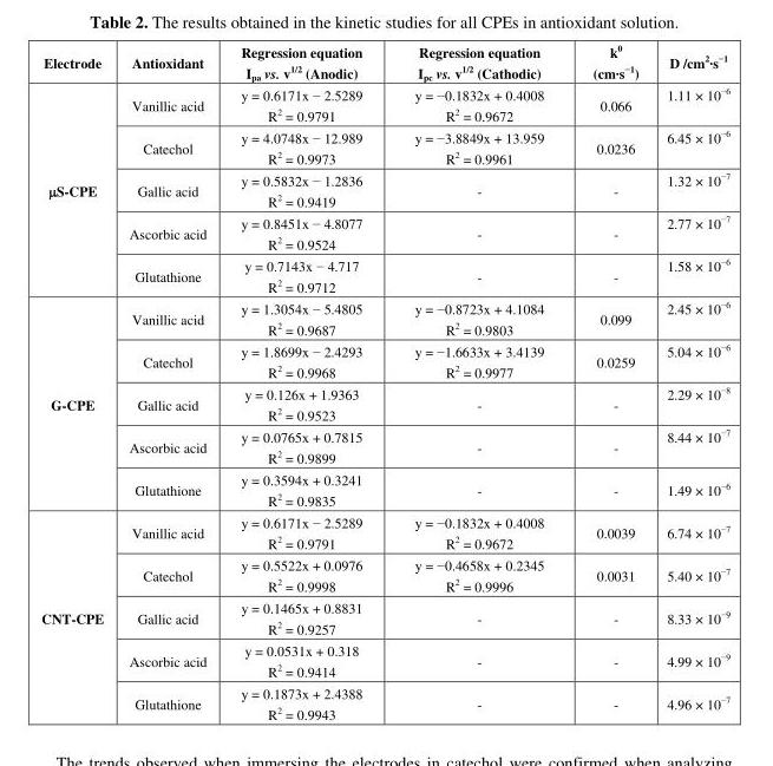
<table><thead><tr><td>Electrode</td><td>Antioxidant</td><td>Regression equation I<sub>pa</sub> vs. v<sup>1/2</sup> (Anodic)</td><td>Regression equation I<sub>pc</sub> vs. v<sup>1/2</sup> (Cathodic)</td><td>k<sup>0</sup> (cm·s<sup>−1</sup>)</td><td>D /cm<sup>2</sup>·s<sup>−1</sup></td></tr></thead><tbody><tr><td rowspan="5">μS-CPE</td><td>Vanillic acid</td><td>y = 0.6171x − 2.5289 R<sup>2</sup> = 0.9791</td><td>y = −0.1832x + 0.4008 R<sup>2</sup> = 0.9672</td><td>0.066</td><td>1.11 × 10<sup>−6</sup></td></tr><tr><td>Catechol</td><td>y = 4.0748x − 12.989 R<sup>2</sup> = 0.9973</td><td>y = −3.8849x + 13.959 R<sup>2</sup> = 0.9961</td><td>0.0236</td><td>6.45 × 10<sup>−6</sup></td></tr><tr><td>Gallic acid</td><td>y = 0.5832x − 1.2836 R<sup>2</sup> = 0.9419</td><td>-</td><td>-</td><td>1.32 × 10<sup>−7</sup></td></tr><tr><td>Ascorbic acid</td><td>y = 0.8451x − 4.8077 R<sup>2</sup> = 0.9524</td><td>-</td><td>-</td><td>2.77 × 10<sup>−7</sup></td></tr><tr><td>Glutathione</td><td>y = 0.7143x − 4.717 R<sup>2</sup> = 0.9712</td><td>-</td><td>-</td><td>1.58 × 10<sup>−6</sup></td></tr><tr><td rowspan="5">G-CPE</td><td>Vanillic acid</td><td>y = 1.3054x − 5.4805 R<sup>2</sup> = 0.9687</td><td>y = −0.8723x + 4.1084 R<sup>2</sup> = 0.9803</td><td>0.099</td><td>2.45 × 10<sup>−6</sup></td></tr><tr><td>Catechol</td><td>y = 1.8699x − 2.4293 R<sup>2</sup> = 0.9968</td><td>y = −1.6633x + 3.4139 R<sup>2</sup> = 0.9977</td><td>0.0259</td><td>5.04 × 10<sup>−6</sup></td></tr><tr><td>Gallic acid</td><td>y = 0.126x + 1.9363 R<sup>2</sup> = 0.9523</td><td>-</td><td>-</td><td>2.29 × 10<sup>−8</sup></td></tr><tr><td>Ascorbic acid</td><td>y = 0.0765x + 0.7815 R<sup>2</sup> = 0.9899</td><td>-</td><td>-</td><td>8.44 × 10<sup>−7</sup></td></tr><tr><td>Glutathione</td><td>y = 0.3594x + 0.3241 R<sup>2</sup> = 0.9835</td><td>-</td><td>-</td><td>1.49 × 10<sup>−6</sup></td></tr><tr><td rowspan="5">CNT-CPE</td><td>Vanillic acid</td><td>y = 0.6171x − 2.5289 R<sup>2</sup> = 0.9791</td><td>y = −0.1832x + 0.4008 R<sup>2</sup> = 0.9672</td><td>0.0039</td><td>6.74 × 10<sup>−7</sup></td></tr><tr><td>Catechol</td><td>y = 0.5522x + 0.0976 R<sup>2</sup> = 0.9998</td><td>y = −0.4658x + 0.2345 R<sup>2</sup> = 0.9996</td><td>0.0031</td><td>5.40 × 10<sup>−7</sup></td></tr><tr><td>Gallic acid</td><td>y = 0.1465x + 0.8831 R<sup>2</sup> = 0.9257</td><td>-</td><td>-</td><td>8.33 × 10<sup>−9</sup></td></tr><tr><td>Ascorbic acid</td><td>y = 0.0531x + 0.318 R<sup>2</sup> = 0.9414</td><td>-</td><td>-</td><td>4.99 × 10<sup>−9</sup></td></tr><tr><td>Glutathione</td><td>y = 0.1873x + 2.4388 R<sup>2</sup> = 0.9943</td><td>-</td><td>-</td><td>4.96 × 10<sup>−7</sup></td></tr></tbody></table>